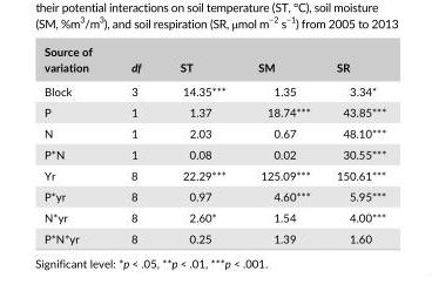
<table><thead><tr><td>Source of variation</td><td>df</td><td>ST</td><td>SM</td><td>SR</td></tr></thead><tbody><tr><td>Block</td><td>3</td><td>14.35***</td><td>1.35</td><td>3.34*</td></tr><tr><td>P</td><td>1</td><td>1.37</td><td>18.74***</td><td>43.85***</td></tr><tr><td>N</td><td>1</td><td>2.03</td><td>0.67</td><td>48.10***</td></tr><tr><td>P*N</td><td>1</td><td>0.08</td><td>0.02</td><td>30.55***</td></tr><tr><td>Yr</td><td>8</td><td>22.29***</td><td>125.09***</td><td>150.61***</td></tr><tr><td>P*yr</td><td>8</td><td>0.97</td><td>4.60***</td><td>5.95***</td></tr><tr><td>N*yr</td><td>8</td><td>2.60*</td><td>1.54</td><td>4.00***</td></tr><tr><td>P*N*yr</td><td>8</td><td>0.25</td><td>1.39</td><td>1.60</td></tr></tbody></table>